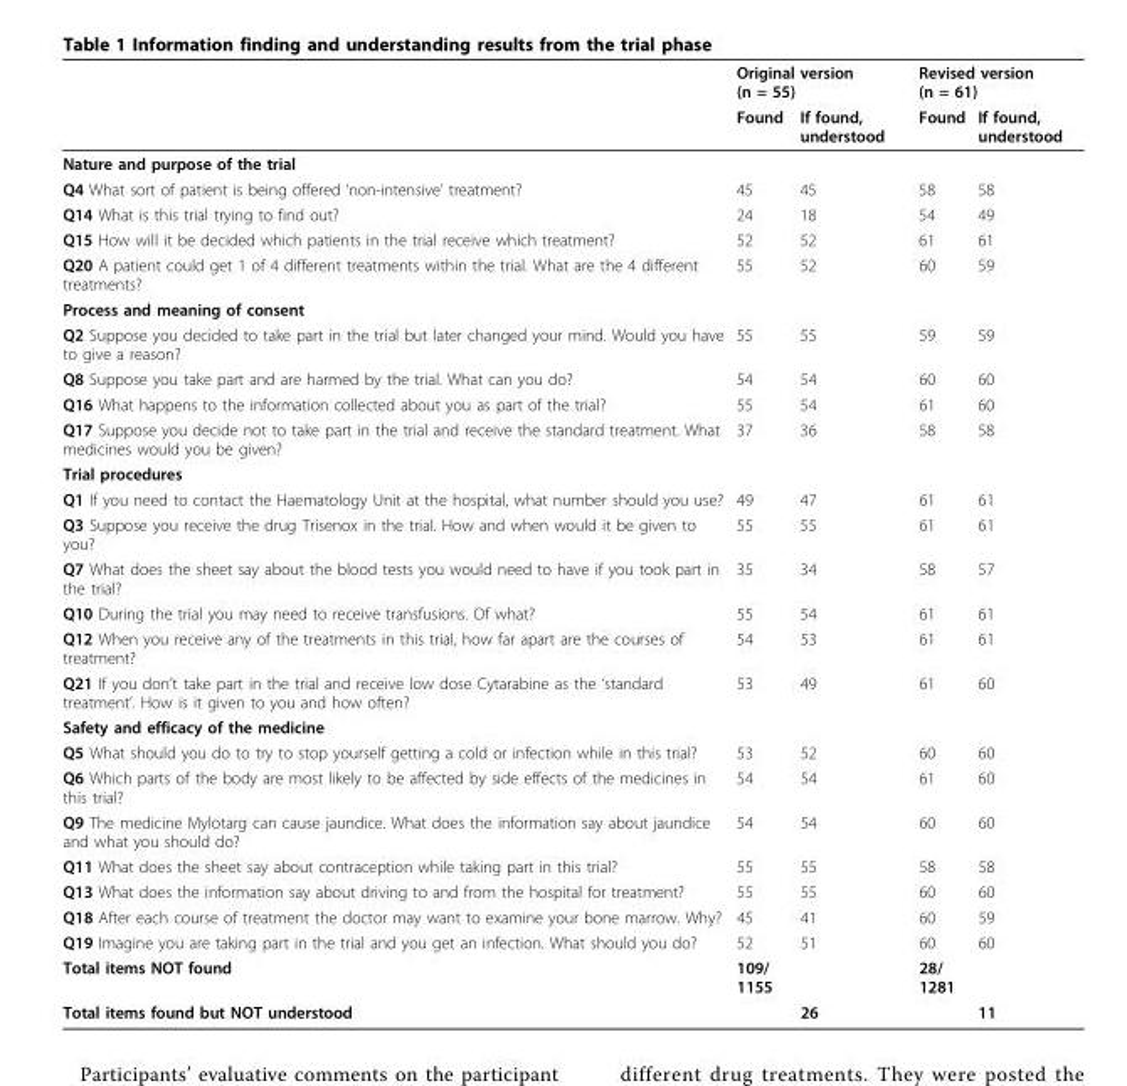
<table><thead><tr><td rowspan="2"></td><td colspan="2">Original version (n = 55)</td><td colspan="2">Revised version (n = 61)</td></tr><tr><td>Found</td><td>If found, understood</td><td>Found</td><td>If found, understood</td></tr></thead><tbody><tr><td colspan="5">Nature and purpose of the trial</td></tr><tr><td>Q4 What sort of patient is being offered ‘non-intensive’ treatment?</td><td>45</td><td>45</td><td>58</td><td>58</td></tr><tr><td>Q14 What is this trial trying to find out?</td><td>24</td><td>18</td><td>54</td><td>49</td></tr><tr><td>Q15 How will it be decided which patients in the trial receive which treatment?</td><td>52</td><td>52</td><td>61</td><td>61</td></tr><tr><td>Q20 A patient could get 1 of 4 different treatments within the trial. What are the 4 different treatments?</td><td>55</td><td>52</td><td>60</td><td>59</td></tr><tr><td colspan="5">Process and meaning of consent</td></tr><tr><td>Q2 Suppose you decided to take part in the trial but later changed your mind. Would you have to give a reason?</td><td>55</td><td>55</td><td>59</td><td>59</td></tr><tr><td>Q8 Suppose you take part and are harmed by the trial. What can you do?</td><td>54</td><td>54</td><td>60</td><td>60</td></tr><tr><td>Q16 What happens to the information collected about you as part of the trial?</td><td>55</td><td>54</td><td>61</td><td>60</td></tr><tr><td>Q17 Suppose you decide not to take part in the trial and receive the standard treatment. What medicines would you be given?</td><td>37</td><td>36</td><td>58</td><td>58</td></tr><tr><td colspan="5">Trial procedures</td></tr><tr><td>Q1 If you need to contact the Haematology Unit at the hospital, what number should you use?</td><td>49</td><td>47</td><td>61</td><td>61</td></tr><tr><td>Q3 Suppose you receive the drug Trisenox in the trial. How and when would it be given to you?</td><td>55</td><td>55</td><td>61</td><td>61</td></tr><tr><td>Q7 What does the sheet say about the blood tests you would need to have if you took part in the trial?</td><td>35</td><td>34</td><td>58</td><td>57</td></tr><tr><td>Q10 During the trial you may need to receive transfusions. Of what?</td><td>55</td><td>54</td><td>61</td><td>61</td></tr><tr><td>Q12 When you receive any of the treatments in this trial, how far apart are the courses of treatment?</td><td>54</td><td>53</td><td>61</td><td>61</td></tr><tr><td>Q21 If you don’t take part in the trial and receive low dose Cytarabine as the ‘standard treatment’. How is it given to you and how often?</td><td>53</td><td>49</td><td>61</td><td>60</td></tr><tr><td colspan="5">Safety and efficacy of the medicine</td></tr><tr><td>Q5 What should you do to try to stop yourself getting a cold or infection while in this trial?</td><td>53</td><td>52</td><td>60</td><td>60</td></tr><tr><td>Q6 Which parts of the body are most likely to be affected by side effects of the medicines in this trial?</td><td>54</td><td>54</td><td>61</td><td>60</td></tr><tr><td>Q9 The medicine Mylotarg can cause jaundice. What does the information say about jaundice and what you should do?</td><td>54</td><td>54</td><td>60</td><td>60</td></tr><tr><td>Q11 What does the sheet say about contraception while taking part in this trial?</td><td>55</td><td>55</td><td>58</td><td>58</td></tr><tr><td>Q13 What does the information say about driving to and from the hospital for treatment?</td><td>55</td><td>55</td><td>60</td><td>60</td></tr><tr><td>Q18 After each course of treatment the doctor may want to examine your bone marrow. Why?</td><td>45</td><td>41</td><td>60</td><td>59</td></tr><tr><td>Q19 Imagine you are taking part in the trial and you get an infection. What should you do?</td><td>52</td><td>51</td><td>60</td><td>60</td></tr><tr><td>Total items NOT found</td><td>109/ 1155</td><td></td><td>28/ 1281</td><td></td></tr><tr><td>Total items found but NOT understood</td><td></td><td>26</td><td></td><td>11</td></tr></tbody></table>